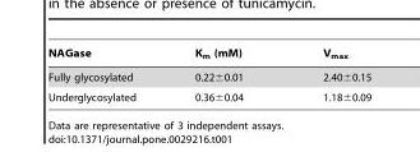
<table><thead><tr><td>NAGase</td><td>K<sub>m</sub> (mM)</td><td>V<sub>max</sub></td></tr></thead><tbody><tr><td>Fully glycosylated</td><td>0.22±0.01</td><td>2.40±0.15</td></tr><tr><td>Underglycosylated</td><td>0.36±0.04</td><td>1.18±0.09</td></tr></tbody></table>